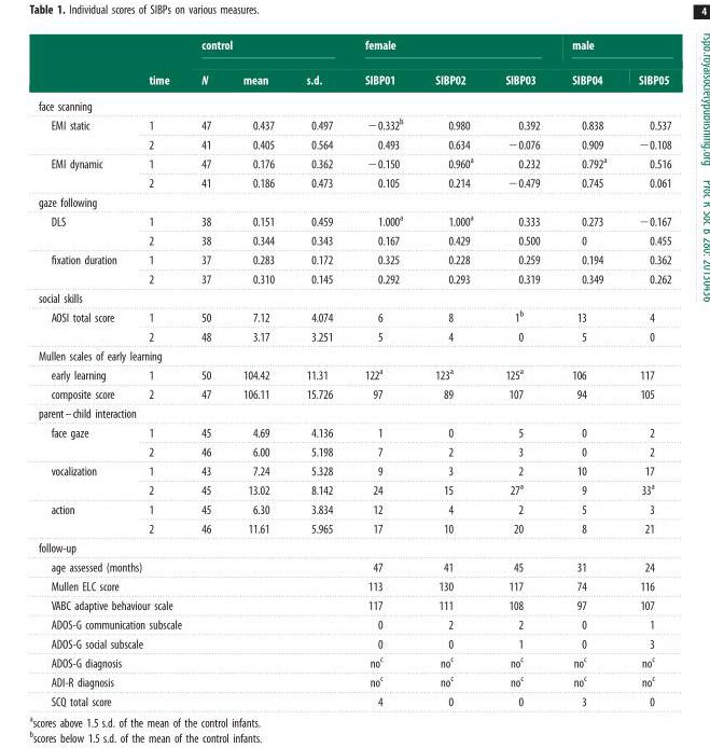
<table><thead><tr><td rowspan="2"></td><td rowspan="2">time</td><td colspan="3">control</td><td colspan="3">female</td><td colspan="2">male</td></tr><tr><td>N</td><td>mean</td><td>s.d.</td><td>SIBP01</td><td>SIBP02</td><td>SIBP03</td><td>SIBP04</td><td>SIBP05</td></tr></thead><tbody><tr><td colspan="10">face scanning</td></tr><tr><td rowspan="2">EMI static</td><td>1</td><td>47</td><td>0.437</td><td>0.497</td><td>−0.332<sup>b</sup></td><td>0.980</td><td>0.392</td><td>0.838</td><td>0.537</td></tr><tr><td>2</td><td>41</td><td>0.405</td><td>0.564</td><td>0.493</td><td>0.634</td><td>−0.076</td><td>0.909</td><td>−0.108</td></tr><tr><td rowspan="2">EMI dynamic</td><td>1</td><td>47</td><td>0.176</td><td>0.362</td><td>−0.150</td><td>0.960<sup>a</sup></td><td>0.232</td><td>0.792<sup>a</sup></td><td>0.516</td></tr><tr><td>2</td><td>41</td><td>0.186</td><td>0.473</td><td>0.105</td><td>0.214</td><td>−0.479</td><td>0.745</td><td>0.061</td></tr><tr><td colspan="10">gaze following</td></tr><tr><td rowspan="2">DLS</td><td>1</td><td>38</td><td>0.151</td><td>0.459</td><td>1.000<sup>a</sup></td><td>1.000<sup>a</sup></td><td>0.333</td><td>0.273</td><td>−0.167</td></tr><tr><td>2</td><td>38</td><td>0.344</td><td>0.343</td><td>0.167</td><td>0.429</td><td>0.500</td><td>0</td><td>0.455</td></tr><tr><td rowspan="2">fixation duration</td><td>1</td><td>37</td><td>0.283</td><td>0.172</td><td>0.325</td><td>0.228</td><td>0.259</td><td>0.194</td><td>0.362</td></tr><tr><td>2</td><td>37</td><td>0.310</td><td>0.145</td><td>0.292</td><td>0.293</td><td>0.319</td><td>0.349</td><td>0.262</td></tr><tr><td colspan="10">social skills</td></tr><tr><td rowspan="2">AOSI total score</td><td>1</td><td>50</td><td>7.12</td><td>4.074</td><td>6</td><td>8</td><td>1<sup>b</sup></td><td>13</td><td>4</td></tr><tr><td>2</td><td>48</td><td>3.17</td><td>3.251</td><td>5</td><td>4</td><td>0</td><td>5</td><td>0</td></tr><tr><td colspan="10">Mullen scales of early learning</td></tr><tr><td>early learning</td><td>1</td><td>50</td><td>104.42</td><td>11.31</td><td>122<sup>a</sup></td><td>123<sup>a</sup></td><td>125<sup>a</sup></td><td>106</td><td>117</td></tr><tr><td>composite score</td><td>2</td><td>47</td><td>106.11</td><td>15.726</td><td>97</td><td>89</td><td>107</td><td>94</td><td>105</td></tr><tr><td colspan="10">parent–child interaction</td></tr><tr><td rowspan="2">face gaze</td><td>1</td><td>45</td><td>4.69</td><td>4.136</td><td>1</td><td>0</td><td>5</td><td>0</td><td>2</td></tr><tr><td>2</td><td>46</td><td>6.00</td><td>5.198</td><td>7</td><td>2</td><td>3</td><td>0</td><td>2</td></tr><tr><td rowspan="2">vocalization</td><td>1</td><td>43</td><td>7.24</td><td>5.328</td><td>9</td><td>3</td><td>2</td><td>10</td><td>17</td></tr><tr><td>2</td><td>45</td><td>13.02</td><td>8.142</td><td>24</td><td>15</td><td>27<sup>a</sup></td><td>9</td><td>33<sup>a</sup></td></tr><tr><td rowspan="2">action</td><td>1</td><td>45</td><td>6.30</td><td>3.834</td><td>12</td><td>4</td><td>2</td><td>5</td><td>3</td></tr><tr><td>2</td><td>46</td><td>11.61</td><td>5.965</td><td>17</td><td>10</td><td>20</td><td>8</td><td>21</td></tr><tr><td colspan="10">follow-up</td></tr><tr><td colspan="5">age assessed (months)</td><td>47</td><td>41</td><td>45</td><td>31</td><td>24</td></tr><tr><td colspan="5">Mullen ELC score</td><td>113</td><td>130</td><td>117</td><td>74</td><td>116</td></tr><tr><td colspan="5">VABC adaptive behaviour scale</td><td>117</td><td>111</td><td>108</td><td>97</td><td>107</td></tr><tr><td colspan="5">ADOS-G communication subscale</td><td>0</td><td>2</td><td>2</td><td>0</td><td>1</td></tr><tr><td colspan="5">ADOS-G social subscale</td><td>0</td><td>0</td><td>1</td><td>0</td><td>3</td></tr><tr><td colspan="5">ADOS-G diagnosis</td><td>no<sup>c</sup></td><td>no<sup>c</sup></td><td>no<sup>c</sup></td><td>no<sup>c</sup></td><td>no<sup>c</sup></td></tr><tr><td colspan="5">ADI-R diagnosis</td><td>no<sup>c</sup></td><td>no<sup>c</sup></td><td>no<sup>c</sup></td><td>no<sup>c</sup></td><td>no<sup>c</sup></td></tr><tr><td colspan="5">SCQ total score</td><td>4</td><td>0</td><td>0</td><td>3</td><td>0</td></tr></tbody></table>